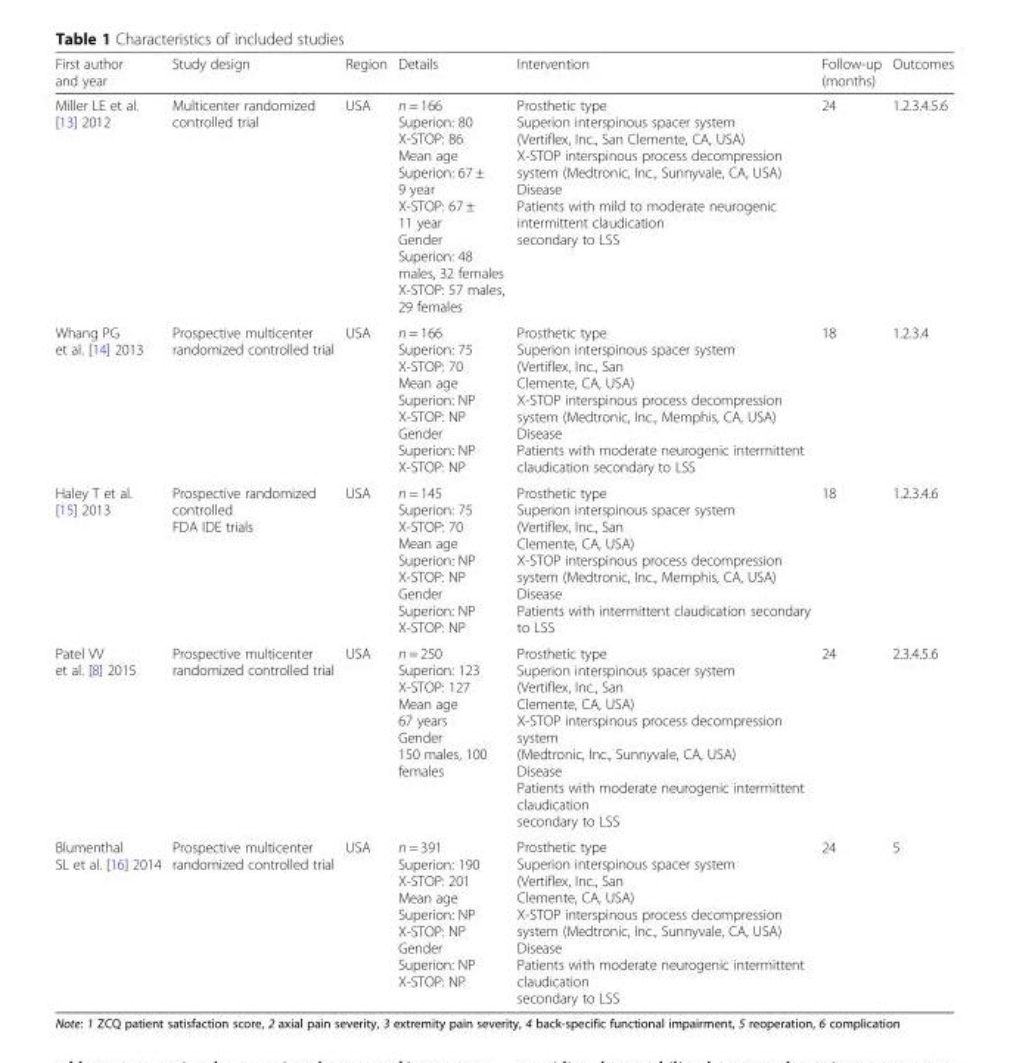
<table><thead><tr><td>First author and year</td><td>Study design</td><td>Region</td><td>Details</td><td>Intervention</td><td>Follow-up (months)</td><td>Outcomes</td></tr></thead><tbody><tr><td>Miller LE et al. [13] 2012</td><td>Multicenter randomized controlled trial</td><td>USA</td><td>n = 166 Superion: 80 X-STOP: 86 Mean age Superion: 67 ± 9 year X-STOP: 67 ± 11 year Gender Superion: 48 males, 32 females X-STOP: 57 males, 29 females</td><td>Prosthetic type Superion interspinous spacer system (Vertiflex, Inc., San Clemente, CA, USA) X-STOP interspinous process decompression system (Medtronic, Inc., Sunnyvale, CA, USA) Disease Patients with mild to moderate neurogenic intermittent claudication secondary to LSS</td><td>24</td><td>1.2.3.4.5.6</td></tr><tr><td>Whang PG et al. [14] 2013</td><td>Prospective multicenter randomized controlled trial</td><td>USA</td><td>n = 166 Superion: 75 X-STOP: 70 Mean age Superion: NP X-STOP: NP Gender Superion: NP X-STOP: NP</td><td>Prosthetic type Superion interspinous spacer system (Vertiflex, Inc., San Clemente, CA, USA) X-STOP interspinous process decompression system (Medtronic, Inc., Memphis, CA, USA) Disease Patients with moderate neurogenic intermittent claudication secondary to LSS</td><td>18</td><td>1.2.3.4</td></tr><tr><td>Haley T et al. [15] 2013</td><td>Prospective randomized controlled FDA IDE trials</td><td>USA</td><td>n = 145 Superion: 75 X-STOP: 70 Mean age Superion: NP X-STOP: NP Gender Superion: NP X-STOP: NP</td><td>Prosthetic type Superion interspinous spacer system (Vertiflex, Inc., San Clemente, CA, USA) X-STOP interspinous process decompression system (Medtronic, Inc., Memphis, CA, USA) Disease Patients with intermittent claudication secondary to LSS</td><td>18</td><td>1.2.3.4.6</td></tr><tr><td>Patel VV et al. [8] 2015</td><td>Prospective multicenter randomized controlled trial</td><td>USA</td><td>n = 250 Superion: 123 X-STOP: 127 Mean age 67 years Gender 150 males, 100 females</td><td>Prosthetic type Superion interspinous spacer system (Vertiflex, Inc., San Clemente, CA, USA) X-STOP interspinous process decompression system (Medtronic, Inc., Sunnyvale, CA, USA) Disease Patients with moderate neurogenic intermittent claudication secondary to LSS</td><td>24</td><td>2.3.4.5.6</td></tr><tr><td>Blumenthal SL et al. [16] 2014</td><td>Prospective multicenter randomized controlled trial</td><td>USA</td><td>n = 391 Superion: 190 X-STOP: 201 Mean age Superion: NP X-STOP: NP Gender Superion: NP X-STOP: NP</td><td>Prosthetic type Superion interspinous spacer system (Vertiflex, Inc., San Clemente, CA, USA) X-STOP interspinous process decompression system (Medtronic, Inc., Sunnyvale, CA, USA) Disease Patients with moderate neurogenic intermittent claudication secondary to LSS</td><td>24</td><td>5</td></tr></tbody></table>